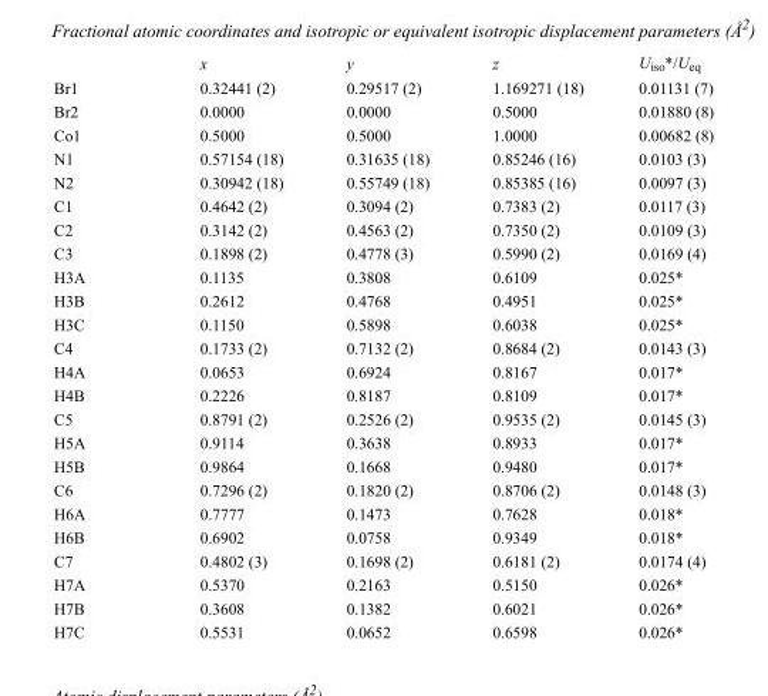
<table><thead><tr><td></td><td>x</td><td>y</td><td>z</td><td>U<sub>iso</sub>*/U<sub>eq</sub></td></tr></thead><tbody><tr><td>Br1</td><td>0.32441 (2)</td><td>0.29517 (2)</td><td>1.169271 (18)</td><td>0.01131 (7)</td></tr><tr><td>Br2</td><td>0.0000</td><td>0.0000</td><td>0.5000</td><td>0.01880 (8)</td></tr><tr><td>Co1</td><td>0.5000</td><td>0.5000</td><td>1.0000</td><td>0.00682 (8)</td></tr><tr><td>N1</td><td>0.57154 (18)</td><td>0.31635 (18)</td><td>0.85246 (16)</td><td>0.0103 (3)</td></tr><tr><td>N2</td><td>0.30942 (18)</td><td>0.55749 (18)</td><td>0.85385 (16)</td><td>0.0097 (3)</td></tr><tr><td>C1</td><td>0.4642 (2)</td><td>0.3094 (2)</td><td>0.7383 (2)</td><td>0.0117 (3)</td></tr><tr><td>C2</td><td>0.3142 (2)</td><td>0.4563 (2)</td><td>0.7350 (2)</td><td>0.0109 (3)</td></tr><tr><td>C3</td><td>0.1898 (2)</td><td>0.4778 (3)</td><td>0.5990 (2)</td><td>0.0169 (4)</td></tr><tr><td>H3A</td><td>0.1135</td><td>0.3808</td><td>0.6109</td><td>0.025*</td></tr><tr><td>H3B</td><td>0.2612</td><td>0.4768</td><td>0.4951</td><td>0.025*</td></tr><tr><td>H3C</td><td>0.1150</td><td>0.5898</td><td>0.6038</td><td>0.025*</td></tr><tr><td>C4</td><td>0.1733 (2)</td><td>0.7132 (2)</td><td>0.8684 (2)</td><td>0.0143 (3)</td></tr><tr><td>H4A</td><td>0.0653</td><td>0.6924</td><td>0.8167</td><td>0.017*</td></tr><tr><td>H4B</td><td>0.2226</td><td>0.8187</td><td>0.8109</td><td>0.017*</td></tr><tr><td>C5</td><td>0.8791 (2)</td><td>0.2526 (2)</td><td>0.9535 (2)</td><td>0.0145 (3)</td></tr><tr><td>H5A</td><td>0.9114</td><td>0.3638</td><td>0.8933</td><td>0.017*</td></tr><tr><td>H5B</td><td>0.9864</td><td>0.1668</td><td>0.9480</td><td>0.017*</td></tr><tr><td>C6</td><td>0.7296 (2)</td><td>0.1820 (2)</td><td>0.8706 (2)</td><td>0.0148 (3)</td></tr><tr><td>H6A</td><td>0.7777</td><td>0.1473</td><td>0.7628</td><td>0.018*</td></tr><tr><td>H6B</td><td>0.6902</td><td>0.0758</td><td>0.9349</td><td>0.018*</td></tr><tr><td>C7</td><td>0.4802 (3)</td><td>0.1698 (2)</td><td>0.6181 (2)</td><td>0.0174 (4)</td></tr><tr><td>H7A</td><td>0.5370</td><td>0.2163</td><td>0.5150</td><td>0.026*</td></tr><tr><td>H7B</td><td>0.3608</td><td>0.1382</td><td>0.6021</td><td>0.026*</td></tr><tr><td>H7C</td><td>0.5531</td><td>0.0652</td><td>0.6598</td><td>0.026*</td></tr></tbody></table>